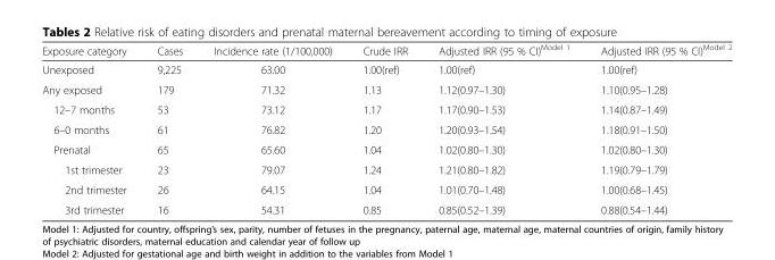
<table><thead><tr><td>Exposure category</td><td>Cases</td><td>Incidence rate (1/100,000)</td><td>Crude IRR</td><td>Adjusted IRR (95 % CI)<sup>Model 1</sup></td><td>Adjusted IRR (95 % CI)<sup>Model 2</sup></td></tr></thead><tbody><tr><td>Unexposed</td><td>9,225</td><td>63.00</td><td>1.00(ref)</td><td>1.00(ref)</td><td>1.00(ref)</td></tr><tr><td>Any exposed</td><td>179</td><td>71.32</td><td>1.13</td><td>1.12(0.97–1.30)</td><td>1.10(0.95–1.28)</td></tr><tr><td>12–7 months</td><td>53</td><td>73.12</td><td>1.17</td><td>1.17(0.90–1.53)</td><td>1.14(0.87–1.49)</td></tr><tr><td>6–0 months</td><td>61</td><td>76.82</td><td>1.20</td><td>1.20(0.93–1.54)</td><td>1.18(0.91–1.50)</td></tr><tr><td>Prenatal</td><td>65</td><td>65.60</td><td>1.04</td><td>1.02(0.80–1.30)</td><td>1.02(0.80–1.30)</td></tr><tr><td>1st trimester</td><td>23</td><td>79.07</td><td>1.24</td><td>1.21(0.80–1.82)</td><td>1.19(0.79–1.79)</td></tr><tr><td>2nd trimester</td><td>26</td><td>64.15</td><td>1.04</td><td>1.01(0.70–1.48)</td><td>1.00(0.68–1.45)</td></tr><tr><td>3rd trimester</td><td>16</td><td>54.31</td><td>0.85</td><td>0.85(0.52–1.39)</td><td>0.88(0.54–1.44)</td></tr></tbody></table>